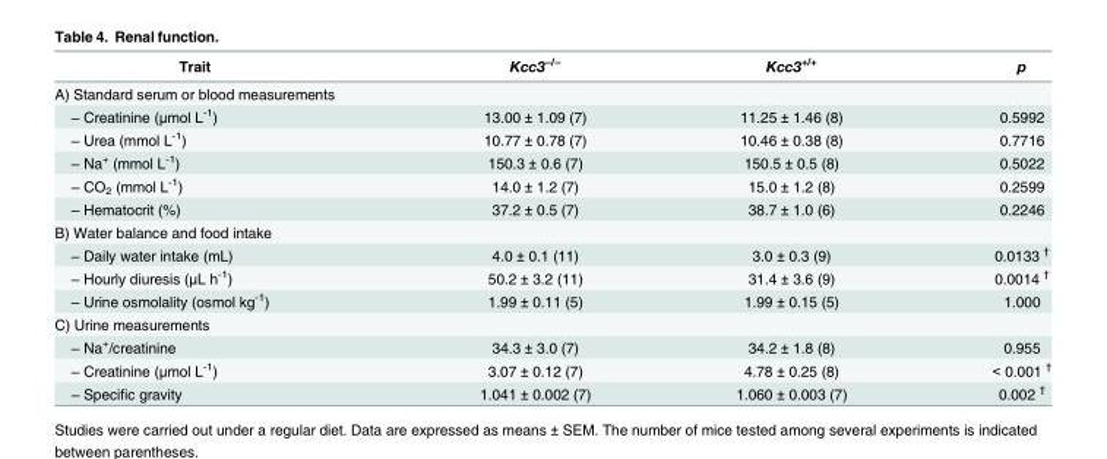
<table><thead><tr><td>Trait</td><td>Kcc3<sup>−/−</sup></td><td>Kcc3<sup>+/+</sup></td><td>p</td></tr></thead><tbody><tr><td colspan="4">A) Standard serum or blood measurements</td></tr><tr><td>‒ Creatinine (μmol L<sup>-1</sup>)</td><td>13.00 ± 1.09 (7)</td><td>11.25 ± 1.46 (8)</td><td>0.5992</td></tr><tr><td>‒ Urea (mmol L<sup>-1</sup>)</td><td>10.77 ± 0.78 (7)</td><td>10.46 ± 0.38 (8)</td><td>0.7716</td></tr><tr><td>‒ Na<sup>+</sup> (mmol L<sup>-1</sup>)</td><td>150.3 ± 0.6 (7)</td><td>150.5 ± 0.5 (8)</td><td>0.5022</td></tr><tr><td>‒ CO<sub>2</sub> (mmol L<sup>-1</sup>)</td><td>14.0 ± 1.2 (7)</td><td>15.0 ± 1.2 (8)</td><td>0.2599</td></tr><tr><td>‒ Hematocrit (%)</td><td>37.2 ± 0.5 (7)</td><td>38.7 ± 1.0 (6)</td><td>0.2246</td></tr><tr><td colspan="4">B) Water balance and food intake</td></tr><tr><td>‒ Daily water intake (mL)</td><td>4.0 ± 0.1 (11)</td><td>3.0 ± 0.3 (9)</td><td>0.0133 <sup>†</sup></td></tr><tr><td>‒ Hourly diuresis (μL h<sup>-1</sup>)</td><td>50.2 ± 3.2 (11)</td><td>31.4 ± 3.6 (9)</td><td>0.0014 <sup>†</sup></td></tr><tr><td>‒ Urine osmolality (osmol kg<sup>-1</sup>)</td><td>1.99 ± 0.11 (5)</td><td>1.99 ± 0.15 (5)</td><td>1.000</td></tr><tr><td colspan="4">C) Urine measurements</td></tr><tr><td>‒ Na<sup>+</sup>/creatinine</td><td>34.3 ± 3.0 (7)</td><td>34.2 ± 1.8 (8)</td><td>0.955</td></tr><tr><td>‒ Creatinine (μmol L<sup>-1</sup>)</td><td>3.07 ± 0.12 (7)</td><td>4.78 ± 0.25 (8)</td><td>&lt; 0.001 <sup>†</sup></td></tr><tr><td>‒ Specific gravity</td><td>1.041 ± 0.002 (7)</td><td>1.060 ± 0.003 (7)</td><td>0.002 <sup>†</sup></td></tr></tbody></table>